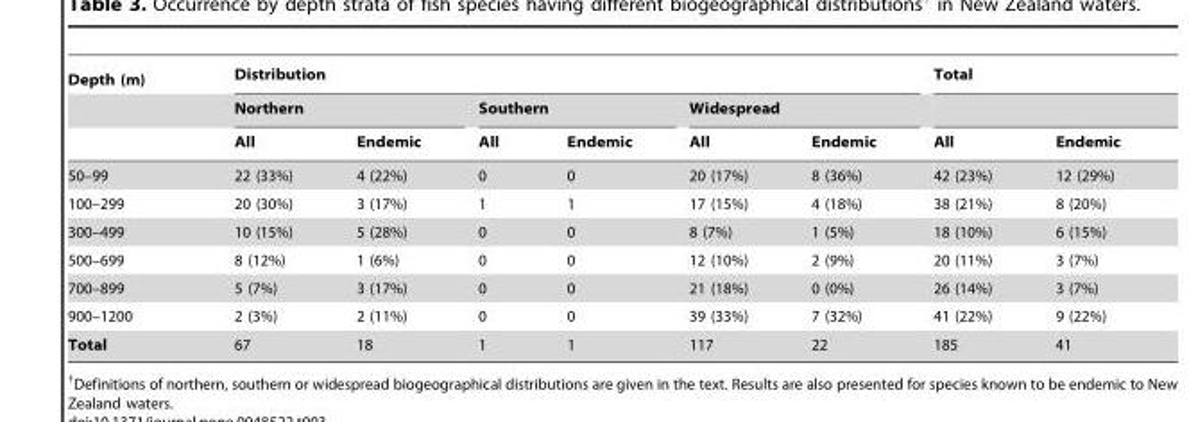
<table><thead><tr><td rowspan="3">Depth (m)</td><td colspan="6">Distribution</td><td colspan="2">Total</td></tr><tr><td colspan="2">Northern</td><td colspan="2">Southern</td><td colspan="2">Widespread</td><td rowspan="2">All</td><td rowspan="2">Endemic</td></tr><tr><td>All</td><td>Endemic</td><td>All</td><td>Endemic</td><td>All</td><td>Endemic</td></tr></thead><tbody><tr><td>50–99</td><td>22 (33%)</td><td>4 (22%)</td><td>0</td><td>0</td><td>20 (17%)</td><td>8 (36%)</td><td>42 (23%)</td><td>12 (29%)</td></tr><tr><td>100–299</td><td>20 (30%)</td><td>3 (17%)</td><td>1</td><td>1</td><td>17 (15%)</td><td>4 (18%)</td><td>38 (21%)</td><td>8 (20%)</td></tr><tr><td>300–499</td><td>10 (15%)</td><td>5 (28%)</td><td>0</td><td>0</td><td>8 (7%)</td><td>1 (5%)</td><td>18 (10%)</td><td>6 (15%)</td></tr><tr><td>500–699</td><td>8 (12%)</td><td>1 (6%)</td><td>0</td><td>0</td><td>12 (10%)</td><td>2 (9%)</td><td>20 (11%)</td><td>3 (7%)</td></tr><tr><td>700–899</td><td>5 (7%)</td><td>3 (17%)</td><td>0</td><td>0</td><td>21 (18%)</td><td>0 (0%)</td><td>26 (14%)</td><td>3 (7%)</td></tr><tr><td>900–1200</td><td>2 (3%)</td><td>2 (11%)</td><td>0</td><td>0</td><td>39 (33%)</td><td>7 (32%)</td><td>41 (22%)</td><td>9 (22%)</td></tr><tr><td>Total</td><td>67</td><td>18</td><td>1</td><td>1</td><td>117</td><td>22</td><td>185</td><td>41</td></tr></tbody></table>